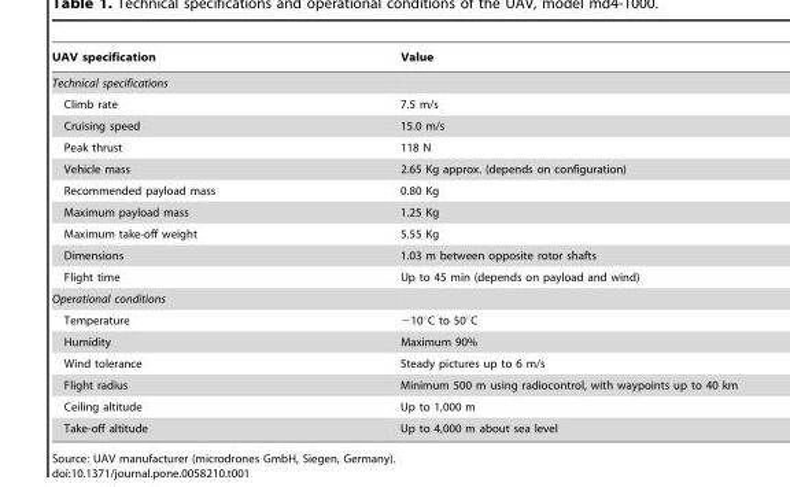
<table><thead><tr><td>UAV specification</td><td>Value</td></tr></thead><tbody><tr><td colspan="2">Technical specifications</td></tr><tr><td>Climb rate</td><td>7.5 m/s</td></tr><tr><td>Cruising speed</td><td>15.0 m/s</td></tr><tr><td>Peak thrust</td><td>118 N</td></tr><tr><td>Vehicle mass</td><td>2.65 Kg approx. (depends on configuration)</td></tr><tr><td>Recommended payload mass</td><td>0.80 Kg</td></tr><tr><td>Maximum payload mass</td><td>1.25 Kg</td></tr><tr><td>Maximum take-off weight</td><td>5.55 Kg</td></tr><tr><td>Dimensions</td><td>1.03 m between opposite rotor shafts</td></tr><tr><td>Flight time</td><td>Up to 45 min (depends on payload and wind)</td></tr><tr><td colspan="2">Operational conditions</td></tr><tr><td>Temperature</td><td>−10°C to 50°C</td></tr><tr><td>Humidity</td><td>Maximum 90%</td></tr><tr><td>Wind tolerance</td><td>Steady pictures up to 6 m/s</td></tr><tr><td>Flight radius</td><td>Minimum 500 m using radiocontrol, with waypoints up to 40 km</td></tr><tr><td>Ceiling altitude</td><td>Up to 1,000 m</td></tr><tr><td>Take-off altitude</td><td>Up to 4,000 m about sea level</td></tr></tbody></table>